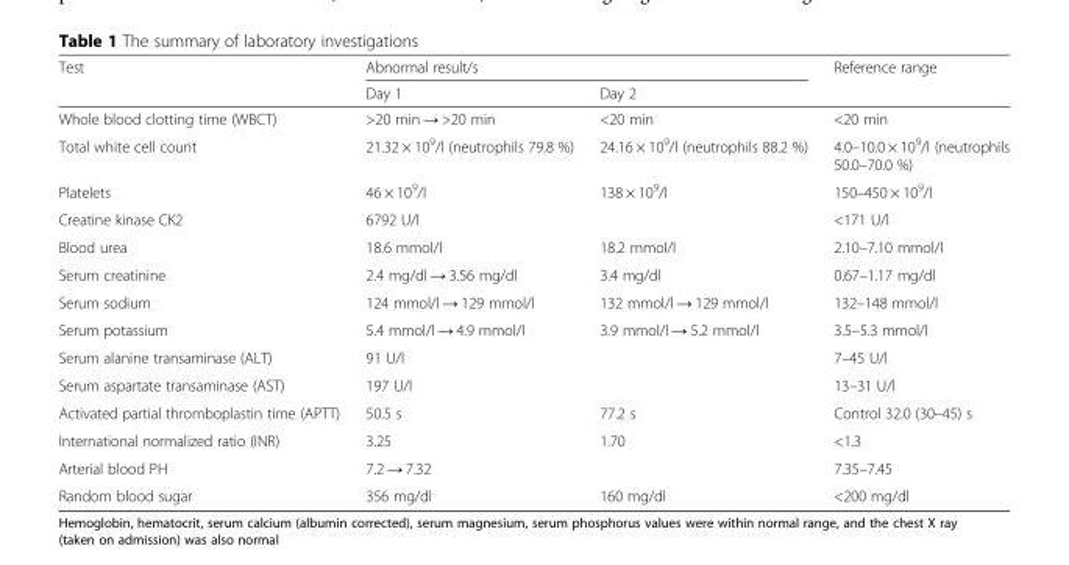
<table><thead><tr><td rowspan="2">Test</td><td colspan="2">Abnormal result/s</td><td rowspan="2">Reference range</td></tr><tr><td>Day 1</td><td>Day 2</td></tr></thead><tbody><tr><td>Whole blood clotting time (WBCT)</td><td>&gt;20 min → &gt;20 min</td><td>&lt;20 min</td><td>&lt;20 min</td></tr><tr><td>Total white cell count</td><td>21.32 × 10<sup>9</sup>/l (neutrophils 79.8 %)</td><td>24.16 × 10<sup>9</sup>/l (neutrophils 88.2 %)</td><td>4.0–10.0 × 10<sup>9</sup>/l (neutrophils 50.0–70.0 %)</td></tr><tr><td>Platelets</td><td>46 × 10<sup>9</sup>/l</td><td>138 × 10<sup>9</sup>/l</td><td>150–450 × 10<sup>9</sup>/l</td></tr><tr><td>Creatine kinase CK2</td><td>6792 U/l</td><td></td><td>&lt;171 U/l</td></tr><tr><td>Blood urea</td><td>18.6 mmol/l</td><td>18.2 mmol/l</td><td>2.10–7.10 mmol/l</td></tr><tr><td>Serum creatinine</td><td>2.4 mg/dl → 3.56 mg/dl</td><td>3.4 mg/dl</td><td>0.67–1.17 mg/dl</td></tr><tr><td>Serum sodium</td><td>124 mmol/l → 129 mmol/l</td><td>132 mmol/l → 129 mmol/l</td><td>132–148 mmol/l</td></tr><tr><td>Serum potassium</td><td>5.4 mmol/l → 4.9 mmol/l</td><td>3.9 mmol/l → 5.2 mmol/l</td><td>3.5–5.3 mmol/l</td></tr><tr><td>Serum alanine transaminase (ALT)</td><td>91 U/l</td><td></td><td>7–45 U/l</td></tr><tr><td>Serum aspartate transaminase (AST)</td><td>197 U/l</td><td></td><td>13–31 U/l</td></tr><tr><td>Activated partial thromboplastin time (APTT)</td><td>50.5 s</td><td>77.2 s</td><td>Control 32.0 (30–45) s</td></tr><tr><td>International normalized ratio (INR)</td><td>3.25</td><td>1.70</td><td>&lt;1.3</td></tr><tr><td>Arterial blood PH</td><td>7.2 → 7.32</td><td></td><td>7.35–7.45</td></tr><tr><td>Random blood sugar</td><td>356 mg/dl</td><td>160 mg/dl</td><td>&lt;200 mg/dl</td></tr></tbody></table>